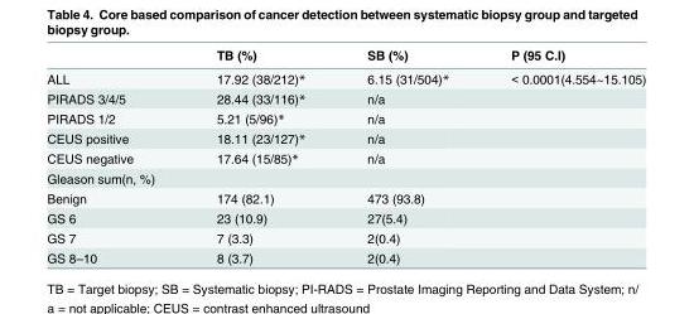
<table><thead><tr><td></td><td>TB (%)</td><td>SB (%)</td><td>P (95 C.I)</td></tr></thead><tbody><tr><td>ALL</td><td>17.92 (38/212)*</td><td>6.15 (31/504)*</td><td>&lt; 0.0001(4.554~15.105)</td></tr><tr><td>PIRADS 3/4/5</td><td>28.44 (33/116)*</td><td>n/a</td><td></td></tr><tr><td>PIRADS 1/2</td><td>5.21 (5/96)*</td><td>n/a</td><td></td></tr><tr><td>CEUS positive</td><td>18.11 (23/127)*</td><td>n/a</td><td></td></tr><tr><td>CEUS negative</td><td>17.64 (15/85)*</td><td>n/a</td><td></td></tr><tr><td colspan="4">Gleason sum(n, %)</td></tr><tr><td>Benign</td><td>174 (82.1)</td><td>473 (93.8)</td><td></td></tr><tr><td>GS 6</td><td>23 (10.9)</td><td>27(5.4)</td><td></td></tr><tr><td>GS 7</td><td>7 (3.3)</td><td>2(0.4)</td><td></td></tr><tr><td>GS 8–10</td><td>8 (3.7)</td><td>2(0.4)</td><td></td></tr></tbody></table>